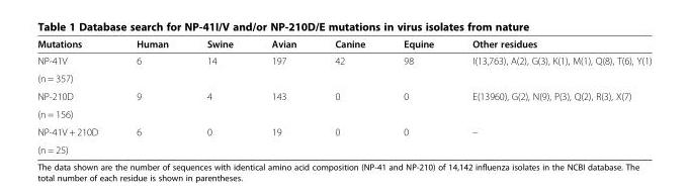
<table><thead><tr><td>Mutations</td><td>Human</td><td>Swine</td><td>Avian</td><td>Canine</td><td>Equine</td><td>Other residues</td></tr></thead><tbody><tr><td>NP-41V</td><td rowspan="2">6</td><td rowspan="2">14</td><td rowspan="2">197</td><td rowspan="2">42</td><td rowspan="2">98</td><td rowspan="2">I(13,763), A(2), G(3), K(1), M(1), Q(8), T(6), Y(1)</td></tr><tr><td>(n = 357)</td></tr><tr><td>NP-210D</td><td rowspan="2">9</td><td rowspan="2">4</td><td rowspan="2">143</td><td rowspan="2">0</td><td rowspan="2">0</td><td rowspan="2">E(13960), G(2), N(9), P(3), Q(2), R(3), X(7)</td></tr><tr><td>(n = 156)</td></tr><tr><td>NP-41V + 210D</td><td rowspan="2">6</td><td rowspan="2">0</td><td rowspan="2">19</td><td rowspan="2">0</td><td rowspan="2">0</td><td rowspan="2">–</td></tr><tr><td>(n = 25)</td></tr></tbody></table>